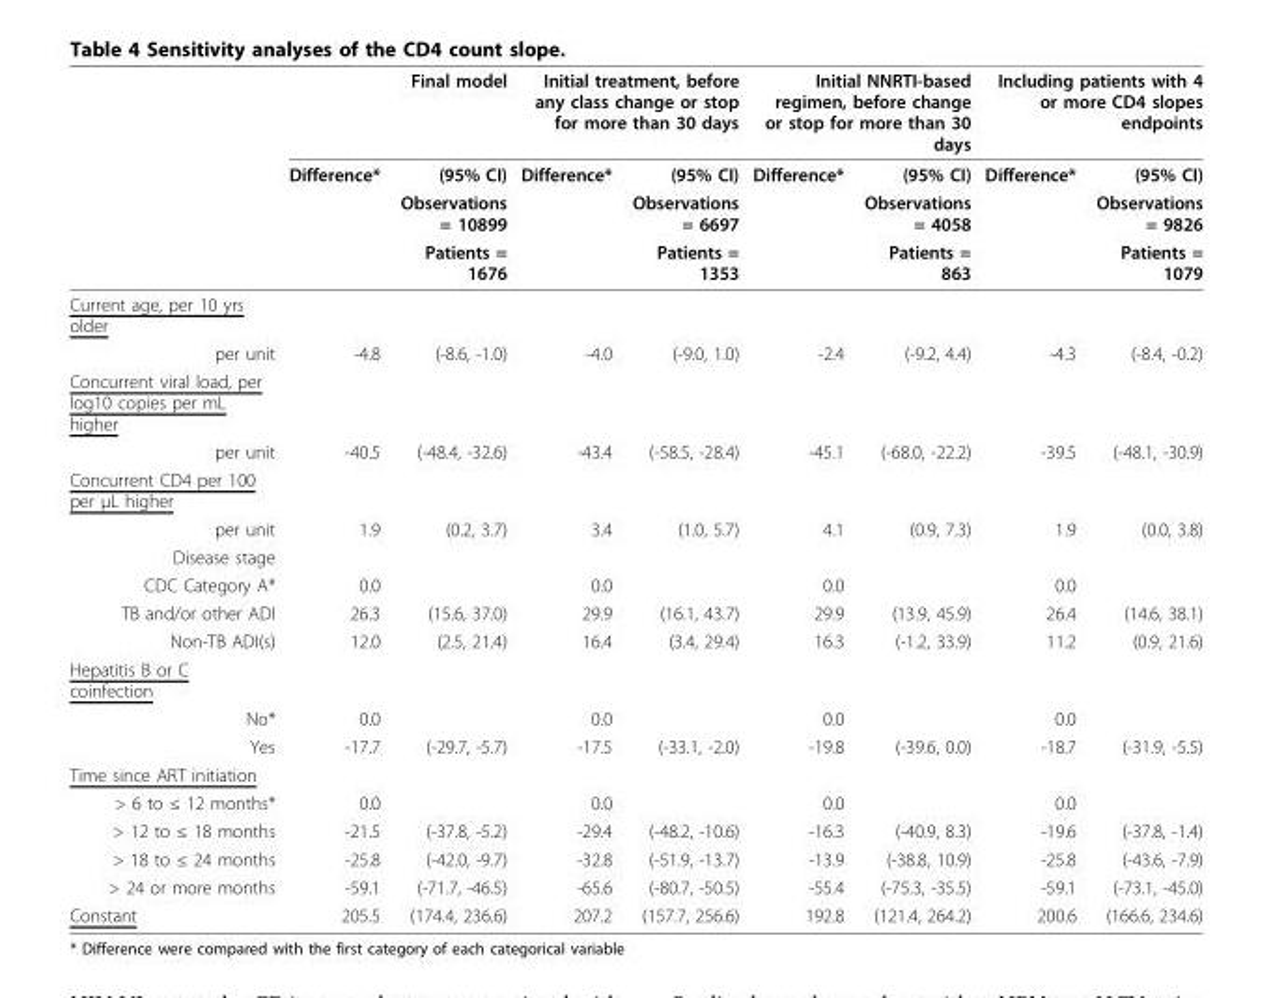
<table><thead><tr><td rowspan="4"></td><td colspan="2">Final model</td><td colspan="2">Initial treatment, before any class change or stop for more than 30 days</td><td colspan="2">Initial NNRTI-based regimen, before change or stop for more than 30 days</td><td colspan="2">Including patients with 4 or more CD4 slopes endpoints</td></tr><tr><td rowspan="3">Difference*</td><td rowspan="3">(95% CI) Observations = 10899 Patients = 1676</td><td rowspan="3">Difference*</td><td rowspan="3">(95% CI) Observations = 6697 Patients = 1353</td><td rowspan="3">Difference*</td><td rowspan="3">(95% CI) Observations = 4058 Patients = 863</td><td rowspan="3">Difference*</td><td rowspan="3">(95% CI) Observations = 9826 Patients = 1079</td></tr><tr></tr><tr></tr></thead><tbody><tr><td colspan="9">Current age, per 10 yrs older</td></tr><tr><td>per unit</td><td>-4.8</td><td>(-8.6, -1.0)</td><td>-4.0</td><td>(-9.0, 1.0)</td><td>-2.4</td><td>(-9.2, 4.4)</td><td>-4.3</td><td>(-8.4, -0.2)</td></tr><tr><td colspan="9">Concurrent viral load, per log10 copies per mL higher</td></tr><tr><td>per unit</td><td>-40.5</td><td>(-48.4, -32.6)</td><td>-43.4</td><td>(-58.5, -28.4)</td><td>-45.1</td><td>(-68.0, -22.2)</td><td>-39.5</td><td>(-48.1, -30.9)</td></tr><tr><td colspan="9">Concurrent CD4 per 100 per μL higher</td></tr><tr><td>per unit</td><td>1.9</td><td>(0.2, 3.7)</td><td>3.4</td><td>(1.0, 5.7)</td><td>4.1</td><td>(0.9, 7.3)</td><td>1.9</td><td>(0.0, 3.8)</td></tr><tr><td colspan="9">Disease stage</td></tr><tr><td>CDC Category A*</td><td>0.0</td><td></td><td>0.0</td><td></td><td>0.0</td><td></td><td>0.0</td><td></td></tr><tr><td>TB and/or other ADI</td><td>26.3</td><td>(15.6, 37.0)</td><td>29.9</td><td>(16.1, 43.7)</td><td>29.9</td><td>(13.9, 45.9)</td><td>26.4</td><td>(14.6, 38.1)</td></tr><tr><td>Non-TB ADI(s)</td><td>12.0</td><td>(2.5, 21.4)</td><td>16.4</td><td>(3.4, 29.4)</td><td>16.3</td><td>(-1.2, 33.9)</td><td>11.2</td><td>(0.9, 21.6)</td></tr><tr><td colspan="9">Hepatitis B or C coinfection</td></tr><tr><td>No*</td><td>0.0</td><td></td><td>0.0</td><td></td><td>0.0</td><td></td><td>0.0</td><td></td></tr><tr><td>Yes</td><td>-17.7</td><td>(-29.7, -5.7)</td><td>-17.5</td><td>(-33.1, -2.0)</td><td>-19.8</td><td>(-39.6, 0.0)</td><td>-18.7</td><td>(-31.9, -5.5)</td></tr><tr><td colspan="9">Time since ART initiation</td></tr><tr><td>&gt; 6 to ≤ 12 months*</td><td>0.0</td><td></td><td>0.0</td><td></td><td>0.0</td><td></td><td>0.0</td><td></td></tr><tr><td>&gt; 12 to ≤ 18 months</td><td>-21.5</td><td>(-37.8, -5.2)</td><td>-29.4</td><td>(-48.2, -10.6)</td><td>-16.3</td><td>(-40.9, 8.3)</td><td>-19.6</td><td>(-37.8, -1.4)</td></tr><tr><td>&gt; 18 to ≤ 24 months</td><td>-25.8</td><td>(-42.0, -9.7)</td><td>-32.8</td><td>(-51.9, -13.7)</td><td>-13.9</td><td>(-38.8, 10.9)</td><td>-25.8</td><td>(-43.6, -7.9)</td></tr><tr><td>&gt; 24 or more months</td><td>-59.1</td><td>(-71.7, -46.5)</td><td>-65.6</td><td>(-80.7, -50.5)</td><td>-55.4</td><td>(-75.3, -35.5)</td><td>-59.1</td><td>(-73.1, -45.0)</td></tr><tr><td>Constant</td><td>205.5</td><td>(174.4, 236.6)</td><td>207.2</td><td>(157.7, 256.6)</td><td>192.8</td><td>(121.4, 264.2)</td><td>200.6</td><td>(166.6, 234.6)</td></tr></tbody></table>